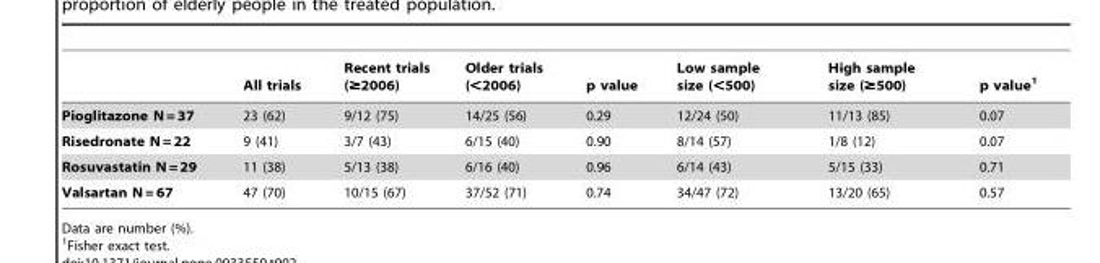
<table><thead><tr><td></td><td>All trials</td><td>Recent trials (≥2006)</td><td>Older trials (&lt;2006)</td><td>p value</td><td>Low sample size (&lt;500)</td><td>High sample size (≥500)</td><td>p value<sup>1</sup></td></tr></thead><tbody><tr><td>Pioglitazone N = 37</td><td>23 (62)</td><td>9/12 (75)</td><td>14/25 (56)</td><td>0.29</td><td>12/24 (50)</td><td>11/13 (85)</td><td>0.07</td></tr><tr><td>Risedronate N = 22</td><td>9 (41)</td><td>3/7 (43)</td><td>6/15 (40)</td><td>0.90</td><td>8/14 (57)</td><td>1/8 (12)</td><td>0.07</td></tr><tr><td>Rosuvastatin N = 29</td><td>11 (38)</td><td>5/13 (38)</td><td>6/16 (40)</td><td>0.96</td><td>6/14 (43)</td><td>5/15 (33)</td><td>0.71</td></tr><tr><td>Valsartan N = 67</td><td>47 (70)</td><td>10/15 (67)</td><td>37/52 (71)</td><td>0.74</td><td>34/47 (72)</td><td>13/20 (65)</td><td>0.57</td></tr></tbody></table>